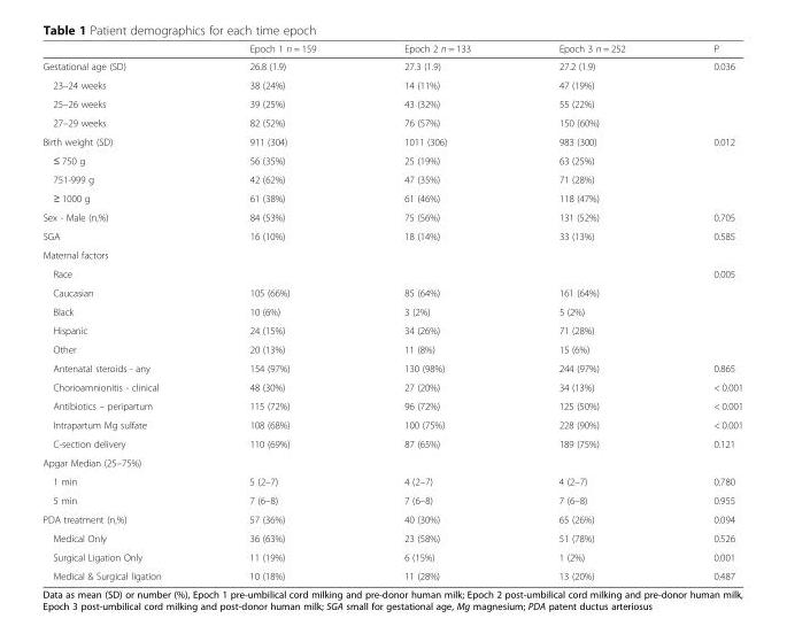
<table><thead><tr><td></td><td>Epoch 1 n = 159</td><td>Epoch 2 n = 133</td><td>Epoch 3 n = 252</td><td>P</td></tr></thead><tbody><tr><td>Gestational age (SD)</td><td>26.8 (1.9)</td><td>27.3 (1.9)</td><td>27.2 (1.9)</td><td>0.036</td></tr><tr><td>23–24 weeks</td><td>38 (24%)</td><td>14 (11%)</td><td>47 (19%)</td><td></td></tr><tr><td>25–26 weeks</td><td>39 (25%)</td><td>43 (32%)</td><td>55 (22%)</td><td></td></tr><tr><td>27–29 weeks</td><td>82 (52%)</td><td>76 (57%)</td><td>150 (60%)</td><td></td></tr><tr><td>Birth weight (SD)</td><td>911 (304)</td><td>1011 (306)</td><td>983 (300)</td><td>0.012</td></tr><tr><td>≤ 750 g</td><td>56 (35%)</td><td>25 (19%)</td><td>63 (25%)</td><td></td></tr><tr><td>751-999 g</td><td>42 (62%)</td><td>47 (35%)</td><td>71 (28%)</td><td></td></tr><tr><td>≥ 1000 g</td><td>61 (38%)</td><td>61 (46%)</td><td>118 (47%)</td><td></td></tr><tr><td>Sex - Male (n,%)</td><td>84 (53%)</td><td>75 (56%)</td><td>131 (52%)</td><td>0.705</td></tr><tr><td>SGA</td><td>16 (10%)</td><td>18 (14%)</td><td>33 (13%)</td><td>0.585</td></tr><tr><td colspan="5">Maternal factors</td></tr><tr><td>Race</td><td></td><td></td><td></td><td>0.005</td></tr><tr><td>Caucasian</td><td>105 (66%)</td><td>85 (64%)</td><td>161 (64%)</td><td></td></tr><tr><td>Black</td><td>10 (6%)</td><td>3 (2%)</td><td>5 (2%)</td><td></td></tr><tr><td>Hispanic</td><td>24 (15%)</td><td>34 (26%)</td><td>71 (28%)</td><td></td></tr><tr><td>Other</td><td>20 (13%)</td><td>11 (8%)</td><td>15 (6%)</td><td></td></tr><tr><td>Antenatal steroids - any</td><td>154 (97%)</td><td>130 (98%)</td><td>244 (97%)</td><td>0.865</td></tr><tr><td>Chorioamnionitis - clinical</td><td>48 (30%)</td><td>27 (20%)</td><td>34 (13%)</td><td>&lt; 0.001</td></tr><tr><td>Antibiotics – peripartum</td><td>115 (72%)</td><td>96 (72%)</td><td>125 (50%)</td><td>&lt; 0.001</td></tr><tr><td>Intrapartum Mg sulfate</td><td>108 (68%)</td><td>100 (75%)</td><td>228 (90%)</td><td>&lt; 0.001</td></tr><tr><td>C-section delivery</td><td>110 (69%)</td><td>87 (65%)</td><td>189 (75%)</td><td>0.121</td></tr><tr><td colspan="5">Apgar Median (25–75%)</td></tr><tr><td>1 min</td><td>5 (2–7)</td><td>4 (2–7)</td><td>4 (2–7)</td><td>0.780</td></tr><tr><td>5 min</td><td>7 (6–8)</td><td>7 (6–8)</td><td>7 (6–8)</td><td>0.955</td></tr><tr><td>PDA treatment (n,%)</td><td>57 (36%)</td><td>40 (30%)</td><td>65 (26%)</td><td>0.094</td></tr><tr><td>Medical Only</td><td>36 (63%)</td><td>23 (58%)</td><td>51 (78%)</td><td>0.526</td></tr><tr><td>Surgical Ligation Only</td><td>11 (19%)</td><td>6 (15%)</td><td>1 (2%)</td><td>0.001</td></tr><tr><td>Medical &amp; Surgical ligation</td><td>10 (18%)</td><td>11 (28%)</td><td>13 (20%)</td><td>0.487</td></tr></tbody></table>